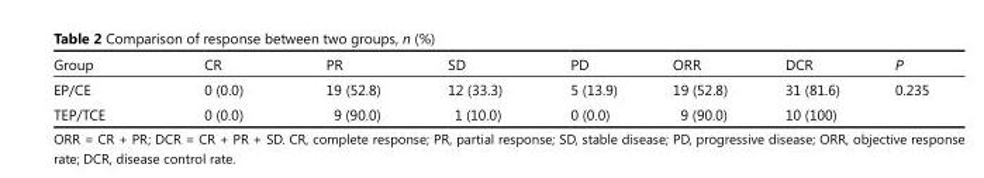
<table><thead><tr><td>Group</td><td>CR</td><td>PR</td><td>SD</td><td>PD</td><td>ORR</td><td>DCR</td><td>P</td></tr></thead><tbody><tr><td>EP/CE</td><td>0 (0.0)</td><td>19 (52.8)</td><td>12 (33.3)</td><td>5 (13.9)</td><td>19 (52.8)</td><td>31 (81.6)</td><td>0.235</td></tr><tr><td>TEP/TCE</td><td>0 (0.0)</td><td>9 (90.0)</td><td>1 (10.0)</td><td>0 (0.0)</td><td>9 (90.0)</td><td>10 (100)</td><td></td></tr></tbody></table>